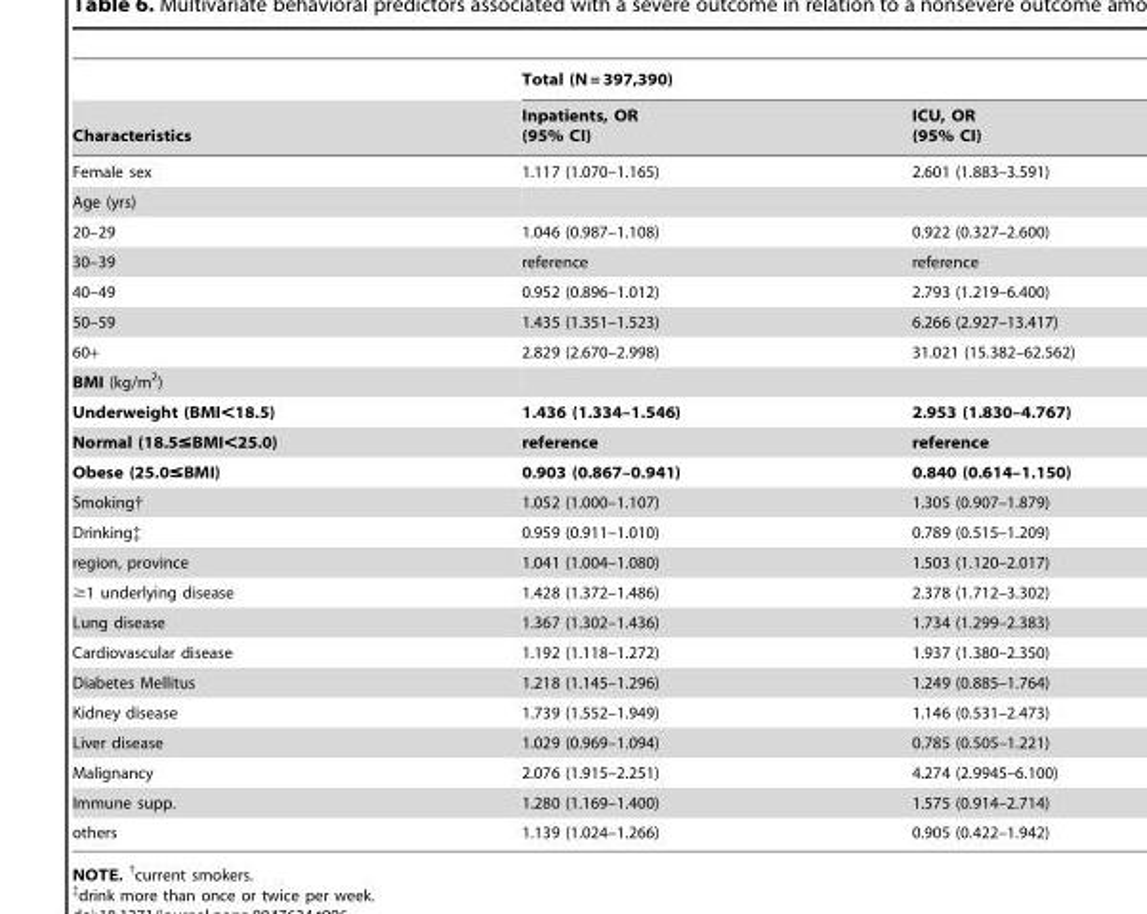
<table><thead><tr><td rowspan="2">Characteristics</td><td colspan="2">Total (N = 397,390)</td></tr><tr><td>Inpatients, OR (95% CI)</td><td>ICU, OR (95% CI)</td></tr></thead><tbody><tr><td>Female sex</td><td>1.117 (1.070–1.165)</td><td>2.601 (1.883–3.591)</td></tr><tr><td colspan="3">Age (yrs)</td></tr><tr><td>20–29</td><td>1.046 (0.987–1.108)</td><td>0.922 (0.327–2.600)</td></tr><tr><td>30–39</td><td>reference</td><td>reference</td></tr><tr><td>40–49</td><td>0.952 (0.896–1.012)</td><td>2.793 (1.219–6.400)</td></tr><tr><td>50–59</td><td>1.435 (1.351–1.523)</td><td>6.266 (2.927–13.417)</td></tr><tr><td>60+</td><td>2.829 (2.670–2.998)</td><td>31.021 (15.382–62.562)</td></tr><tr><td colspan="3">BMI (kg/m<sup>2</sup>)</td></tr><tr><td>Underweight (BMI&lt;18.5)</td><td>1.436 (1.334–1.546)</td><td>2.953 (1.830–4.767)</td></tr><tr><td>Normal (18.5≤BMI&lt;25.0)</td><td>reference</td><td>reference</td></tr><tr><td>Obese (25.0≤BMI)</td><td>0.903 (0.867–0.941)</td><td>0.840 (0.614–1.150)</td></tr><tr><td>Smoking†</td><td>1.052 (1.000–1.107)</td><td>1.305 (0.907–1.879)</td></tr><tr><td>Drinking‡</td><td>0.959 (0.911–1.010)</td><td>0.789 (0.515–1.209)</td></tr><tr><td>region, province</td><td>1.041 (1.004–1.080)</td><td>1.503 (1.120–2.017)</td></tr><tr><td>≥1 underlying disease</td><td>1.428 (1.372–1.486)</td><td>2.378 (1.712–3.302)</td></tr><tr><td>Lung disease</td><td>1.367 (1.302–1.436)</td><td>1.734 (1.299–2.383)</td></tr><tr><td>Cardiovascular disease</td><td>1.192 (1.118–1.272)</td><td>1.937 (1.380–2.350)</td></tr><tr><td>Diabetes Mellitus</td><td>1.218 (1.145–1.296)</td><td>1.249 (0.885–1.764)</td></tr><tr><td>Kidney disease</td><td>1.739 (1.552–1.949)</td><td>1.146 (0.531–2.473)</td></tr><tr><td>Liver disease</td><td>1.029 (0.969–1.094)</td><td>0.785 (0.505–1.221)</td></tr><tr><td>Malignancy</td><td>2.076 (1.915–2.251)</td><td>4.274 (2.9945–6.100)</td></tr><tr><td>Immune supp.</td><td>1.280 (1.169–1.400)</td><td>1.575 (0.914–2.714)</td></tr><tr><td>others</td><td>1.139 (1.024–1.266)</td><td>0.905 (0.422–1.942)</td></tr></tbody></table>